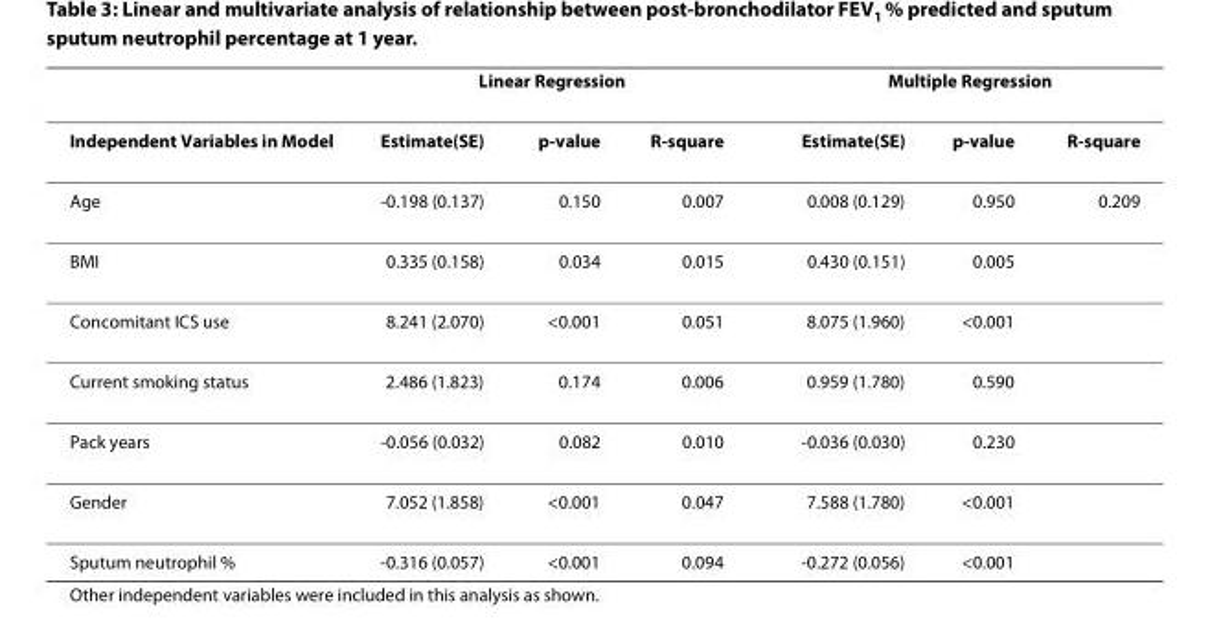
<table><thead><tr><td rowspan="2">Independent Variables in Model</td><td colspan="3">Linear Regression</td><td colspan="3">Multiple Regression</td></tr><tr><td>Estimate(SE)</td><td>p-value</td><td>R-square</td><td>Estimate(SE)</td><td>p-value</td><td>R-square</td></tr></thead><tbody><tr><td>Age</td><td>-0.198 (0.137)</td><td>0.150</td><td>0.007</td><td>0.008 (0.129)</td><td>0.950</td><td>0.209</td></tr><tr><td>BMI</td><td>0.335 (0.158)</td><td>0.034</td><td>0.015</td><td>0.430 (0.151)</td><td>0.005</td><td></td></tr><tr><td>Concomitant ICS use</td><td>8.241 (2.070)</td><td>&lt;0.001</td><td>0.051</td><td>8.075 (1.960)</td><td>&lt;0.001</td><td></td></tr><tr><td>Current smoking status</td><td>2.486 (1.823)</td><td>0.174</td><td>0.006</td><td>0.959 (1.780)</td><td>0.590</td><td></td></tr><tr><td>Pack years</td><td>-0.056 (0.032)</td><td>0.082</td><td>0.010</td><td>-0.036 (0.030)</td><td>0.230</td><td></td></tr><tr><td>Gender</td><td>7.052 (1.858)</td><td>&lt;0.001</td><td>0.047</td><td>7.588 (1.780)</td><td>&lt;0.001</td><td></td></tr><tr><td>Sputum neutrophil %</td><td>-0.316 (0.057)</td><td>&lt;0.001</td><td>0.094</td><td>-0.272 (0.056)</td><td>&lt;0.001</td><td></td></tr></tbody></table>